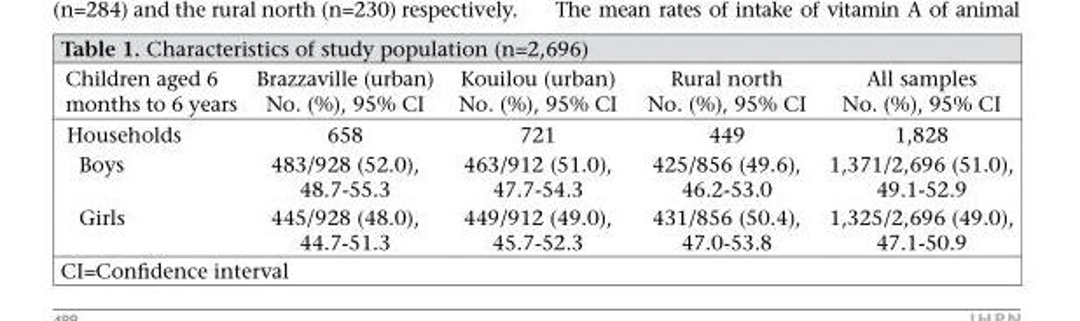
<table><thead><tr><td>Children aged 6 months to 6 years</td><td>Brazzaville (urban) No. (%), 95% CI</td><td>Kouilou (urban) No. (%), 95% CI</td><td>Rural north No. (%), 95% CI</td><td>All samples No. (%), 95% CI</td></tr></thead><tbody><tr><td>Households</td><td>658</td><td>721</td><td>449</td><td>1,828</td></tr><tr><td>Boys</td><td>483/928 (52.0), 48.7-55.3</td><td>463/912 (51.0), 47.7-54.3</td><td>425/856 (49.6), 46.2-53.0</td><td>1,371/2,696 (51.0), 49.1-52.9</td></tr><tr><td>Girls</td><td>445/928 (48.0), 44.7-51.3</td><td>449/912 (49.0), 45.7-52.3</td><td>431/856 (50.4), 47.0-53.8</td><td>1,325/2,696 (49.0), 47.1-50.9</td></tr></tbody></table>